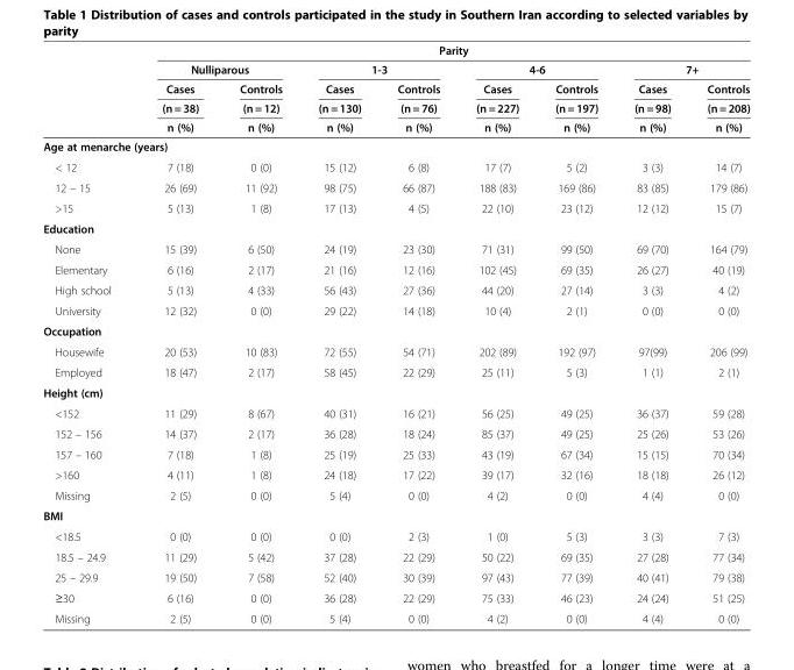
<table><thead><tr><td rowspan="5"></td><td colspan="8">Parity</td></tr><tr><td colspan="2">Nulliparous</td><td colspan="2">1-3</td><td colspan="2">4-6</td><td colspan="2">7+</td></tr><tr><td rowspan="3">Cases (n = 38) n (%)</td><td rowspan="3">Controls (n = 12) n (%)</td><td rowspan="3">Cases (n = 130) n (%)</td><td rowspan="3">Controls (n = 76) n (%)</td><td rowspan="3">Cases (n = 227) n (%)</td><td rowspan="3">Controls (n = 197) n (%)</td><td rowspan="3">Cases (n = 98) n (%)</td><td rowspan="3">Controls (n = 208) n (%)</td></tr><tr></tr><tr></tr></thead><tbody><tr><td colspan="9">Age at menarche (years)</td></tr><tr><td>&lt; 12</td><td>7 (18)</td><td>0 (0)</td><td>15 (12)</td><td>6 (8)</td><td>17 (7)</td><td>5 (2)</td><td>3 (3)</td><td>14 (7)</td></tr><tr><td>12 – 15</td><td>26 (69)</td><td>11 (92)</td><td>98 (75)</td><td>66 (87)</td><td>188 (83)</td><td>169 (86)</td><td>83 (85)</td><td>179 (86)</td></tr><tr><td>&gt;15</td><td>5 (13)</td><td>1 (8)</td><td>17 (13)</td><td>4 (5)</td><td>22 (10)</td><td>23 (12)</td><td>12 (12)</td><td>15 (7)</td></tr><tr><td colspan="9">Education</td></tr><tr><td>None</td><td>15 (39)</td><td>6 (50)</td><td>24 (19)</td><td>23 (30)</td><td>71 (31)</td><td>99 (50)</td><td>69 (70)</td><td>164 (79)</td></tr><tr><td>Elementary</td><td>6 (16)</td><td>2 (17)</td><td>21 (16)</td><td>12 (16)</td><td>102 (45)</td><td>69 (35)</td><td>26 (27)</td><td>40 (19)</td></tr><tr><td>High school</td><td>5 (13)</td><td>4 (33)</td><td>56 (43)</td><td>27 (36)</td><td>44 (20)</td><td>27 (14)</td><td>3 (3)</td><td>4 (2)</td></tr><tr><td>University</td><td>12 (32)</td><td>0 (0)</td><td>29 (22)</td><td>14 (18)</td><td>10 (4)</td><td>2 (1)</td><td>0 (0)</td><td>0 (0)</td></tr><tr><td colspan="9">Occupation</td></tr><tr><td>Housewife</td><td>20 (53)</td><td>10 (83)</td><td>72 (55)</td><td>54 (71)</td><td>202 (89)</td><td>192 (97)</td><td>97(99)</td><td>206 (99)</td></tr><tr><td>Employed</td><td>18 (47)</td><td>2 (17)</td><td>58 (45)</td><td>22 (29)</td><td>25 (11)</td><td>5 (3)</td><td>1 (1)</td><td>2 (1)</td></tr><tr><td colspan="9">Height (cm)</td></tr><tr><td>&lt;152</td><td>11 (29)</td><td>8 (67)</td><td>40 (31)</td><td>16 (21)</td><td>56 (25)</td><td>49 (25)</td><td>36 (37)</td><td>59 (28)</td></tr><tr><td>152 – 156</td><td>14 (37)</td><td>2 (17)</td><td>36 (28)</td><td>18 (24)</td><td>85 (37)</td><td>49 (25)</td><td>25 (26)</td><td>53 (26)</td></tr><tr><td>157 – 160</td><td>7 (18)</td><td>1 (8)</td><td>25 (19)</td><td>25 (33)</td><td>43 (19)</td><td>67 (34)</td><td>15 (15)</td><td>70 (34)</td></tr><tr><td>&gt;160</td><td>4 (11)</td><td>1 (8)</td><td>24 (18)</td><td>17 (22)</td><td>39 (17)</td><td>32 (16)</td><td>18 (18)</td><td>26 (12)</td></tr><tr><td>Missing</td><td>2 (5)</td><td>0 (0)</td><td>5 (4)</td><td>0 (0)</td><td>4 (2)</td><td>0 (0)</td><td>4 (4)</td><td>0 (0)</td></tr><tr><td colspan="9">BMI</td></tr><tr><td>&lt;18.5</td><td>0 (0)</td><td>0 (0)</td><td>0 (0)</td><td>2 (3)</td><td>1 (0)</td><td>5 (3)</td><td>3 (3)</td><td>7 (3)</td></tr><tr><td>18.5 – 24.9</td><td>11 (29)</td><td>5 (42)</td><td>37 (28)</td><td>22 (29)</td><td>50 (22)</td><td>69 (35)</td><td>27 (28)</td><td>77 (34)</td></tr><tr><td>25 – 29.9</td><td>19 (50)</td><td>7 (58)</td><td>52 (40)</td><td>30 (39)</td><td>97 (43)</td><td>77 (39)</td><td>40 (41)</td><td>79 (38)</td></tr><tr><td>≥30</td><td>6 (16)</td><td>0 (0)</td><td>36 (28)</td><td>22 (29)</td><td>75 (33)</td><td>46 (23)</td><td>24 (24)</td><td>51 (25)</td></tr><tr><td>Missing</td><td>2 (5)</td><td>0 (0)</td><td>5 (4)</td><td>0 (0)</td><td>4 (2)</td><td>0 (0)</td><td>4 (4)</td><td>0 (0)</td></tr></tbody></table>